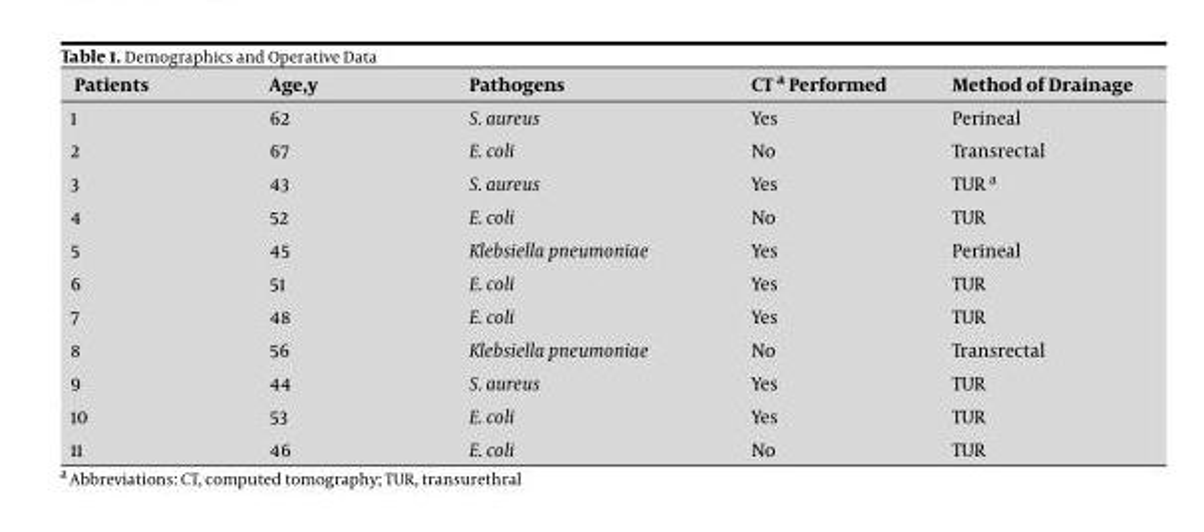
<table><thead><tr><td>Patients</td><td>Age,y</td><td>Pathogens</td><td>CT <sup>a</sup> Performed</td><td>Method of Drainage</td></tr></thead><tbody><tr><td>1</td><td>62</td><td>S. aureus</td><td>Yes</td><td>Perineal</td></tr><tr><td>2</td><td>67</td><td>E. coli</td><td>No</td><td>Transrectal</td></tr><tr><td>3</td><td>43</td><td>S. aureus</td><td>Yes</td><td>TUR <sup>a</sup></td></tr><tr><td>4</td><td>52</td><td>E. coli</td><td>No</td><td>TUR</td></tr><tr><td>5</td><td>45</td><td>Klebsiella pneumoniae</td><td>Yes</td><td>Perineal</td></tr><tr><td>6</td><td>51</td><td>E. coli</td><td>Yes</td><td>TUR</td></tr><tr><td>7</td><td>48</td><td>E. coli</td><td>Yes</td><td>TUR</td></tr><tr><td>8</td><td>56</td><td>Klebsiella pneumoniae</td><td>No</td><td>Transrectal</td></tr><tr><td>9</td><td>44</td><td>S. aureus</td><td>Yes</td><td>TUR</td></tr><tr><td>10</td><td>53</td><td>E. coli</td><td>Yes</td><td>TUR</td></tr><tr><td>11</td><td>46</td><td>E. coli</td><td>No</td><td>TUR</td></tr></tbody></table>